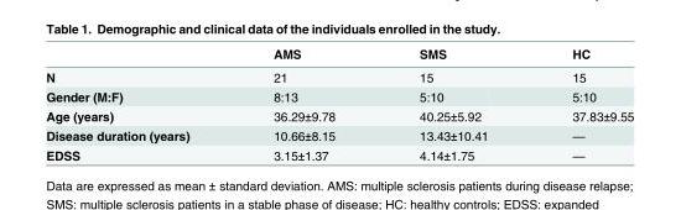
<table><thead><tr><td></td><td>AMS</td><td>SMS</td><td>HC</td></tr></thead><tbody><tr><td>N</td><td>21</td><td>15</td><td>15</td></tr><tr><td>Gender (M:F)</td><td>8:13</td><td>5:10</td><td>5:10</td></tr><tr><td>Age (years)</td><td>36.29±9.78</td><td>40.25±5.92</td><td>37.83±9.55</td></tr><tr><td>Disease duration (years)</td><td>10.66±8.15</td><td>13.43±10.41</td><td>—</td></tr><tr><td>EDSS</td><td>3.15±1.37</td><td>4.14±1.75</td><td>—</td></tr></tbody></table>